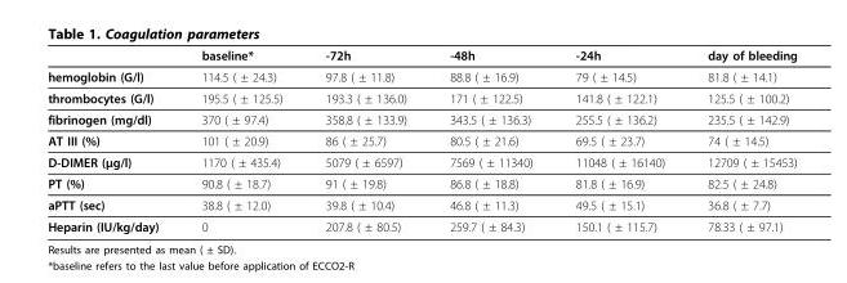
<table><thead><tr><td></td><td>baseline*</td><td>-72h</td><td>-48h</td><td>-24h</td><td>day of bleeding</td></tr></thead><tbody><tr><td>hemoglobin (G/l)</td><td>114.5 ( ± 24.3)</td><td>97.8 ( ± 11.8)</td><td>88.8 ( ± 16.9)</td><td>79 ( ± 14.5)</td><td>81.8 ( ± 14.1)</td></tr><tr><td>thrombocytes (G/l)</td><td>195.5 ( ± 125.5)</td><td>193.3 ( ± 136.0)</td><td>171 ( ± 122.5)</td><td>141.8 ( ± 122.1)</td><td>125.5 ( ± 100.2)</td></tr><tr><td>fibrinogen (mg/dl)</td><td>370 ( ± 97.4)</td><td>358.8 ( ± 133.9)</td><td>343.5 ( ± 136.3)</td><td>255.5 ( ± 136.2)</td><td>235.5 ( ± 142.9)</td></tr><tr><td>AT III (%)</td><td>101 ( ± 20.9)</td><td>86 ( ± 25.7)</td><td>80.5 ( ± 21.6)</td><td>69.5 ( ± 23.7)</td><td>74 ( ± 14.5)</td></tr><tr><td>D-DIMER (µg/l)</td><td>1170 ( ± 435.4)</td><td>5079 ( ± 6597)</td><td>7569 ( ± 11340)</td><td>11048 ( ± 16140)</td><td>12709 ( ± 15453)</td></tr><tr><td>PT (%)</td><td>90.8 ( ± 18.7)</td><td>91 ( ± 19.8)</td><td>86.8 ( ± 18.8)</td><td>81.8 ( ± 16.9)</td><td>82.5 ( ± 24.8)</td></tr><tr><td>aPTT (sec)</td><td>38.8 ( ± 12.0)</td><td>39.8 ( ± 10.4)</td><td>46.8 ( ± 11.3)</td><td>49.5 ( ± 15.1)</td><td>36.8 ( ± 7.7)</td></tr><tr><td>Heparin (IU/kg/day)</td><td>0</td><td>207.8 ( ± 80.5)</td><td>259.7 ( ± 84.3)</td><td>150.1 ( ± 115.7)</td><td>78.33 ( ± 97.1)</td></tr></tbody></table>